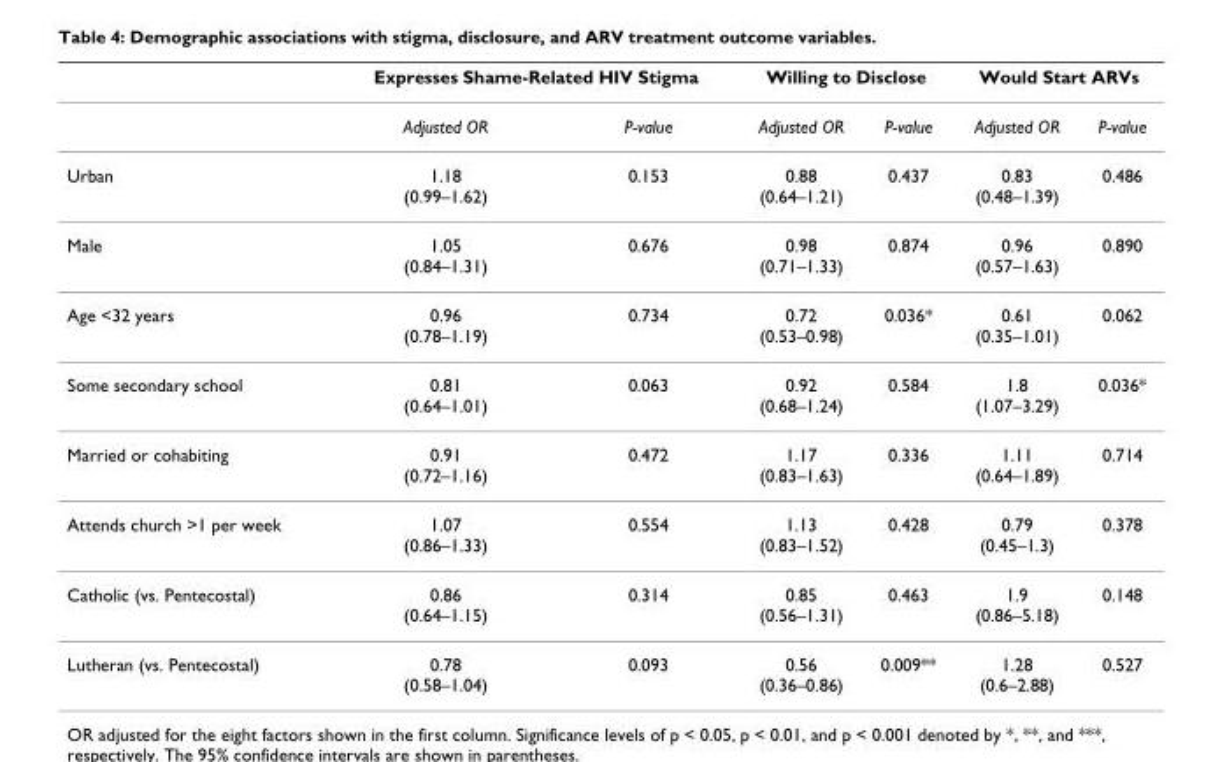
<table><thead><tr><td rowspan="2"></td><td colspan="2">Expresses Shame-Related HIV Stigma</td><td colspan="2">Willing to Disclose</td><td colspan="2">Would Start ARVs</td></tr><tr><td>Adjusted OR</td><td>P-value</td><td>Adjusted OR</td><td>P-value</td><td>Adjusted OR</td><td>P-value</td></tr></thead><tbody><tr><td>Urban</td><td>1.18 (0.99–1.62)</td><td>0.153</td><td>0.88 (0.64–1.21)</td><td>0.437</td><td>0.83 (0.48–1.39)</td><td>0.486</td></tr><tr><td>Male</td><td>1.05 (0.84–1.31)</td><td>0.676</td><td>0.98 (0.71–1.33)</td><td>0.874</td><td>0.96 (0.57–1.63)</td><td>0.890</td></tr><tr><td>Age &lt;32 years</td><td>0.96 (0.78–1.19)</td><td>0.734</td><td>0.72 (0.53–0.98)</td><td>0.036*</td><td>0.61 (0.35–1.01)</td><td>0.062</td></tr><tr><td>Some secondary school</td><td>0.81 (0.64–1.01)</td><td>0.063</td><td>0.92 (0.68–1.24)</td><td>0.584</td><td>1.8 (1.07–3.29)</td><td>0.036*</td></tr><tr><td>Married or cohabiting</td><td>0.91 (0.72–1.16)</td><td>0.472</td><td>1.17 (0.83–1.63)</td><td>0.336</td><td>1.11 (0.64–1.89)</td><td>0.714</td></tr><tr><td>Attends church &gt;1 per week</td><td>1.07 (0.86–1.33)</td><td>0.554</td><td>1.13 (0.83–1.52)</td><td>0.428</td><td>0.79 (0.45–1.3)</td><td>0.378</td></tr><tr><td>Catholic (vs. Pentecostal)</td><td>0.86 (0.64–1.15)</td><td>0.314</td><td>0.85 (0.56–1.31)</td><td>0.463</td><td>1.9 (0.86–5.18)</td><td>0.148</td></tr><tr><td>Lutheran (vs. Pentecostal)</td><td>0.78 (0.58–1.04)</td><td>0.093</td><td>0.56 (0.36–0.86)</td><td>0.009**</td><td>1.28 (0.6–2.88)</td><td>0.527</td></tr></tbody></table>